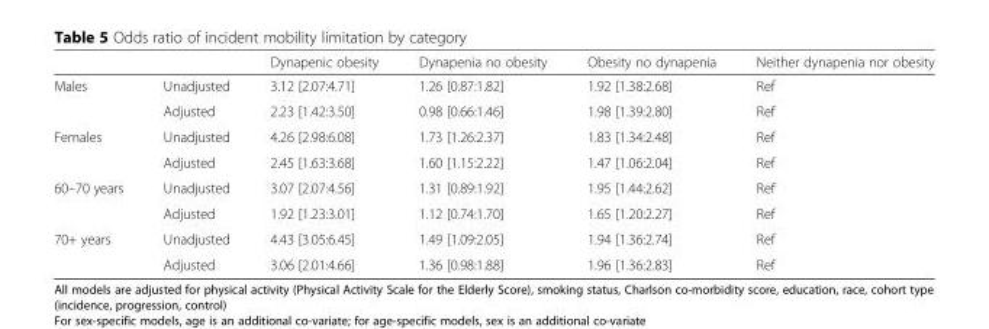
<table><thead><tr><td></td><td></td><td>Dynapenic obesity</td><td>Dynapenia no obesity</td><td>Obesity no dynapenia</td><td>Neither dynapenia nor obesity</td></tr></thead><tbody><tr><td rowspan="2">Males</td><td>Unadjusted</td><td>3.12 [2.07:4.71]</td><td>1.26 [0.87:1.82]</td><td>1.92 [1.38:2.68]</td><td>Ref</td></tr><tr><td>Adjusted</td><td>2.23 [1.42:3.50]</td><td>0.98 [0.66:1.46]</td><td>1.98 [1.39:2.80]</td><td>Ref</td></tr><tr><td rowspan="2">Females</td><td>Unadjusted</td><td>4.26 [2.98:6.08]</td><td>1.73 [1.26:2.37]</td><td>1.83 [1.34:2.48]</td><td>Ref</td></tr><tr><td>Adjusted</td><td>2.45 [1.63:3.68]</td><td>1.60 [1.15:2.22]</td><td>1.47 [1.06:2.04]</td><td>Ref</td></tr><tr><td rowspan="2">60–70 years</td><td>Unadjusted</td><td>3.07 [2.07:4.56]</td><td>1.31 [0.89:1.92]</td><td>1.95 [1.44:2.62]</td><td>Ref</td></tr><tr><td>Adjusted</td><td>1.92 [1.23:3.01]</td><td>1.12 [0.74:1.70]</td><td>1.65 [1.20:2.27]</td><td>Ref</td></tr><tr><td rowspan="2">70+ years</td><td>Unadjusted</td><td>4.43 [3.05:6.45]</td><td>1.49 [1.09:2.05]</td><td>1.94 [1.36:2.74]</td><td>Ref</td></tr><tr><td>Adjusted</td><td>3.06 [2.01:4.66]</td><td>1.36 [0.98:1.88]</td><td>1.96 [1.36:2.83]</td><td>Ref</td></tr></tbody></table>